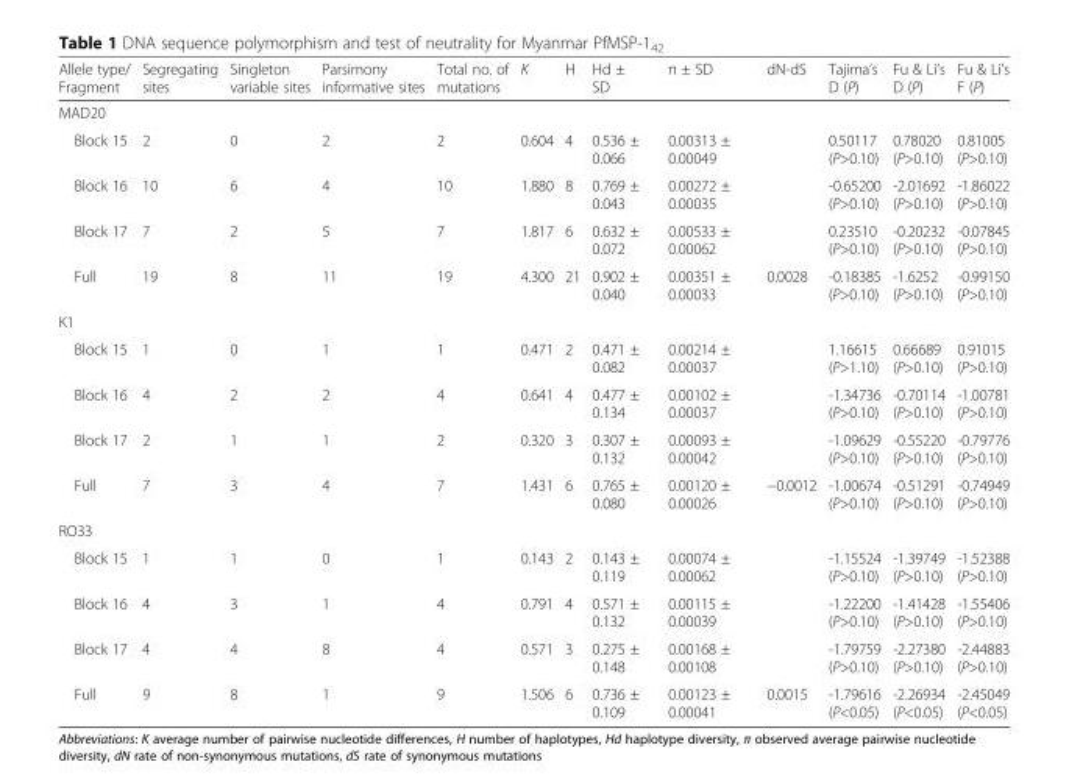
<table><thead><tr><td>Allele type/ Fragment</td><td>Segregating sites</td><td>Singleton variable sites</td><td>Parsimony informative sites</td><td>Total no. of mutations</td><td>K</td><td>H</td><td>Hd ± SD</td><td>π ± SD</td><td>dN-dS</td><td>Tajima’s D (P)</td><td>Fu &amp; Li’s D (P)</td><td>Fu &amp; Li’s F (P)</td></tr></thead><tbody><tr><td colspan="13">MAD20</td></tr><tr><td>Block 15</td><td>2</td><td>0</td><td>2</td><td>2</td><td>0.604</td><td>4</td><td>0.536 ± 0.066</td><td>0.00313 ± 0.00049</td><td></td><td>0.50117 (P&gt;0.10)</td><td>0.78020 (P&gt;0.10)</td><td>0.81005 (P&gt;0.10)</td></tr><tr><td>Block 16</td><td>10</td><td>6</td><td>4</td><td>10</td><td>1.880</td><td>8</td><td>0.769 ± 0.043</td><td>0.00272 ± 0.00035</td><td></td><td>-0.65200 (P&gt;0.10)</td><td>-2.01692 (P&gt;0.10)</td><td>-1.86022 (P&gt;0.10)</td></tr><tr><td>Block 17</td><td>7</td><td>2</td><td>5</td><td>7</td><td>1.817</td><td>6</td><td>0.632 ± 0.072</td><td>0.00533 ± 0.00062</td><td></td><td>0.23510 (P&gt;0.10)</td><td>-0.20232 (P&gt;0.10)</td><td>-0.07845 (P&gt;0.10)</td></tr><tr><td>Full</td><td>19</td><td>8</td><td>11</td><td>19</td><td>4.300</td><td>21</td><td>0.902 ± 0.040</td><td>0.00351 ± 0.00033</td><td>0.0028</td><td>-0.18385 (P&gt;0.10)</td><td>-1.6252 (P&gt;0.10)</td><td>-0.99150 (P&gt;0.10)</td></tr><tr><td colspan="13">K1</td></tr><tr><td>Block 15</td><td>1</td><td>0</td><td>1</td><td>1</td><td>0.471</td><td>2</td><td>0.471 ± 0.082</td><td>0.00214 ± 0.00037</td><td></td><td>1.16615 (P&gt;1.10)</td><td>0.66689 (P&gt;0.10)</td><td>0.91015 (P&gt;0.10)</td></tr><tr><td>Block 16</td><td>4</td><td>2</td><td>2</td><td>4</td><td>0.641</td><td>4</td><td>0.477 ± 0.134</td><td>0.00102 ± 0.00037</td><td></td><td>-1.34736 (P&gt;0.10)</td><td>-0.70114 (P&gt;0.10)</td><td>-1.00781 (P&gt;0.10)</td></tr><tr><td>Block 17</td><td>2</td><td>1</td><td>1</td><td>2</td><td>0.320</td><td>3</td><td>0.307 ± 0.132</td><td>0.00093 ± 0.00042</td><td></td><td>-1.09629 (P&gt;0.10)</td><td>-0.55220 (P&gt;0.10)</td><td>-0.79776 (P&gt;0.10)</td></tr><tr><td>Full</td><td>7</td><td>3</td><td>4</td><td>7</td><td>1.431</td><td>6</td><td>0.765 ± 0.080</td><td>0.00120 ± 0.00026</td><td>−0.0012</td><td>-1.00674 (P&gt;0.10)</td><td>-0.51291 (P&gt;0.10)</td><td>-0.74949 (P&gt;0.10)</td></tr><tr><td colspan="13">RO33</td></tr><tr><td>Block 15</td><td>1</td><td>1</td><td>0</td><td>1</td><td>0.143</td><td>2</td><td>0.143 ± 0.119</td><td>0.00074 ± 0.00062</td><td></td><td>-1.15524 (P&gt;0.10)</td><td>-1.39749 (P&gt;0.10)</td><td>-1.52388 (P&gt;0.10)</td></tr><tr><td>Block 16</td><td>4</td><td>3</td><td>1</td><td>4</td><td>0.791</td><td>4</td><td>0.571 ± 0.132</td><td>0.00115 ± 0.00039</td><td></td><td>-1.22200 (P&gt;0.10)</td><td>-1.41428 (P&gt;0.10)</td><td>-1.55406 (P&gt;0.10)</td></tr><tr><td>Block 17</td><td>4</td><td>4</td><td>8</td><td>4</td><td>0.571</td><td>3</td><td>0.275 ± 0.148</td><td>0.00168 ± 0.00108</td><td></td><td>-1.79759 (P&gt;0.10)</td><td>-2.27380 (P&gt;0.10)</td><td>-2.44883 (P&gt;0.10)</td></tr><tr><td>Full</td><td>9</td><td>8</td><td>1</td><td>9</td><td>1.506</td><td>6</td><td>0.736 ± 0.109</td><td>0.00123 ± 0.00041</td><td>0.0015</td><td>-1.79616 (P&lt;0.05)</td><td>-2.26934 (P&lt;0.05)</td><td>-2.45049 (P&lt;0.05)</td></tr></tbody></table>